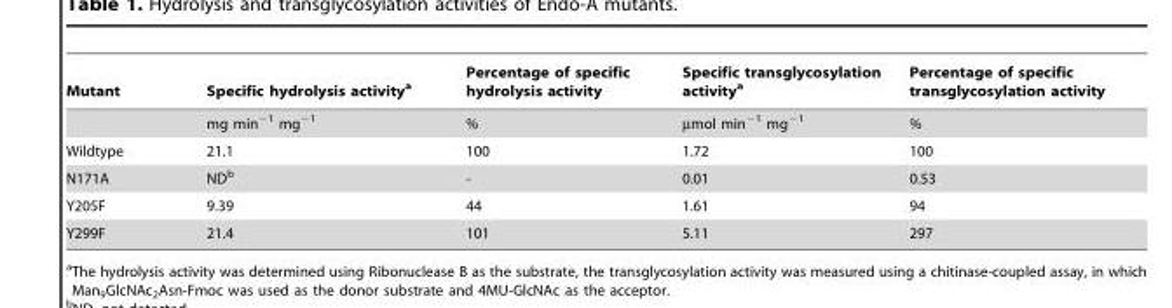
<table><thead><tr><td>Mutant</td><td>Specific hydrolysis activity<sup>a</sup></td><td>Percentage of specific hydrolysis activity</td><td>Specific transglycosylation activity<sup>a</sup></td><td>Percentage of specific transglycosylation activity</td></tr></thead><tbody><tr><td></td><td>mg min<sup>−1</sup> mg<sup>−1</sup></td><td>%</td><td>µmol min<sup>−1</sup> mg<sup>−1</sup></td><td>%</td></tr><tr><td>Wildtype</td><td>21.1</td><td>100</td><td>1.72</td><td>100</td></tr><tr><td>N171A</td><td>ND<sup>b</sup></td><td>-</td><td>0.01</td><td>0.53</td></tr><tr><td>Y205F</td><td>9.39</td><td>44</td><td>1.61</td><td>94</td></tr><tr><td>Y299F</td><td>21.4</td><td>101</td><td>5.11</td><td>297</td></tr></tbody></table>